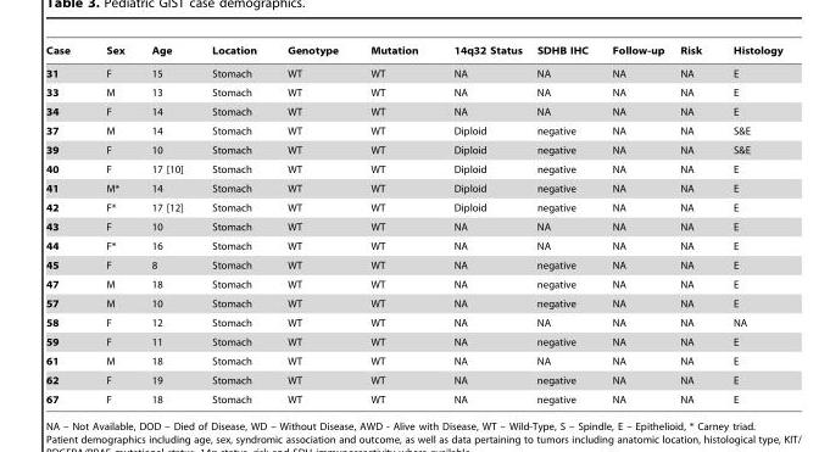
<table><thead><tr><td>Case</td><td>Sex</td><td>Age</td><td>Location</td><td>Genotype</td><td>Mutation</td><td>14q32 Status</td><td>SDHB IHC</td><td>Follow-up</td><td>Risk</td><td>Histology</td></tr></thead><tbody><tr><td>31</td><td>F</td><td>15</td><td>Stomach</td><td>WT</td><td>WT</td><td>NA</td><td>NA</td><td>NA</td><td>NA</td><td>E</td></tr><tr><td>33</td><td>M</td><td>13</td><td>Stomach</td><td>WT</td><td>WT</td><td>NA</td><td>NA</td><td>NA</td><td>NA</td><td>E</td></tr><tr><td>34</td><td>F</td><td>14</td><td>Stomach</td><td>WT</td><td>WT</td><td>NA</td><td>NA</td><td>NA</td><td>NA</td><td>E</td></tr><tr><td>37</td><td>M</td><td>14</td><td>Stomach</td><td>WT</td><td>WT</td><td>Diploid</td><td>negative</td><td>NA</td><td>NA</td><td>S&amp;E</td></tr><tr><td>39</td><td>F</td><td>10</td><td>Stomach</td><td>WT</td><td>WT</td><td>Diploid</td><td>negative</td><td>NA</td><td>NA</td><td>S&amp;E</td></tr><tr><td>40</td><td>F</td><td>17 [10]</td><td>Stomach</td><td>WT</td><td>WT</td><td>Diploid</td><td>negative</td><td>NA</td><td>NA</td><td>E</td></tr><tr><td>41</td><td>M*</td><td>14</td><td>Stomach</td><td>WT</td><td>WT</td><td>Diploid</td><td>negative</td><td>NA</td><td>NA</td><td>E</td></tr><tr><td>42</td><td>F*</td><td>17 [12]</td><td>Stomach</td><td>WT</td><td>WT</td><td>Diploid</td><td>negative</td><td>NA</td><td>NA</td><td>E</td></tr><tr><td>43</td><td>F</td><td>10</td><td>Stomach</td><td>WT</td><td>WT</td><td>NA</td><td>NA</td><td>NA</td><td>NA</td><td>E</td></tr><tr><td>44</td><td>F*</td><td>16</td><td>Stomach</td><td>WT</td><td>WT</td><td>NA</td><td>NA</td><td>NA</td><td>NA</td><td>E</td></tr><tr><td>45</td><td>F</td><td>8</td><td>Stomach</td><td>WT</td><td>WT</td><td>NA</td><td>negative</td><td>NA</td><td>NA</td><td>E</td></tr><tr><td>47</td><td>M</td><td>18</td><td>Stomach</td><td>WT</td><td>WT</td><td>NA</td><td>negative</td><td>NA</td><td>NA</td><td>E</td></tr><tr><td>57</td><td>M</td><td>10</td><td>Stomach</td><td>WT</td><td>WT</td><td>NA</td><td>negative</td><td>NA</td><td>NA</td><td>E</td></tr><tr><td>58</td><td>F</td><td>12</td><td>Stomach</td><td>WT</td><td>WT</td><td>NA</td><td>NA</td><td>NA</td><td>NA</td><td>NA</td></tr><tr><td>59</td><td>F</td><td>11</td><td>Stomach</td><td>WT</td><td>WT</td><td>NA</td><td>negative</td><td>NA</td><td>NA</td><td>E</td></tr><tr><td>61</td><td>M</td><td>18</td><td>Stomach</td><td>WT</td><td>WT</td><td>NA</td><td>NA</td><td>NA</td><td>NA</td><td>E</td></tr><tr><td>62</td><td>F</td><td>19</td><td>Stomach</td><td>WT</td><td>WT</td><td>NA</td><td>negative</td><td>NA</td><td>NA</td><td>E</td></tr><tr><td>67</td><td>F</td><td>18</td><td>Stomach</td><td>WT</td><td>WT</td><td>NA</td><td>negative</td><td>NA</td><td>NA</td><td>E</td></tr></tbody></table>